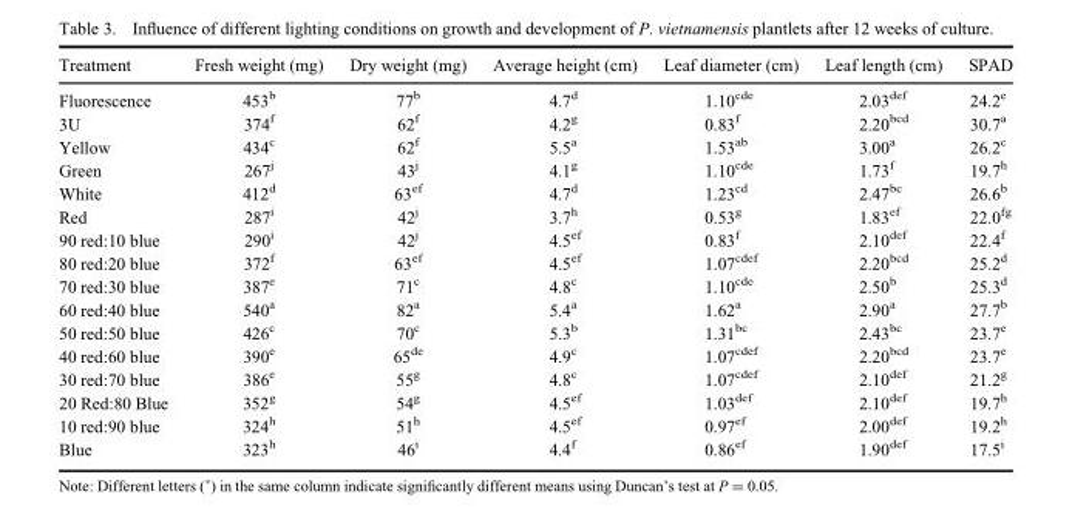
<table><thead><tr><td>Treatment</td><td>Fresh weight (mg)</td><td>Dry weight (mg)</td><td>Average height (cm)</td><td>Leaf diameter (cm)</td><td>Leaf length (cm)</td><td>SPAD</td></tr></thead><tbody><tr><td>Fluorescence</td><td>453<sup>b</sup></td><td>77<sup>b</sup></td><td>4.7<sup>d</sup></td><td>1.10<sup>cde</sup></td><td>2.03<sup>def</sup></td><td>24.2<sup>e</sup></td></tr><tr><td>3U</td><td>374<sup>f</sup></td><td>62<sup>f</sup></td><td>4.2<sup>g</sup></td><td>0.83<sup>f</sup></td><td>2.20<sup>bcd</sup></td><td>30.7<sup>a</sup></td></tr><tr><td>Yellow</td><td>434<sup>c</sup></td><td>62<sup>f</sup></td><td>5.5<sup>a</sup></td><td>1.53<sup>ab</sup></td><td>3.00<sup>a</sup></td><td>26.2<sup>c</sup></td></tr><tr><td>Green</td><td>267<sup>j</sup></td><td>43<sup>j</sup></td><td>4.1<sup>g</sup></td><td>1.10<sup>cde</sup></td><td>1.73<sup>f</sup></td><td>19.7<sup>h</sup></td></tr><tr><td>White</td><td>412<sup>d</sup></td><td>63<sup>ef</sup></td><td>4.7<sup>d</sup></td><td>1.23<sup>cd</sup></td><td>2.47<sup>bc</sup></td><td>26.6<sup>b</sup></td></tr><tr><td>Red</td><td>287<sup>i</sup></td><td>42<sup>j</sup></td><td>3.7<sup>h</sup></td><td>0.53<sup>g</sup></td><td>1.83<sup>ef</sup></td><td>22.0<sup>fg</sup></td></tr><tr><td>90 red:10 blue</td><td>290<sup>i</sup></td><td>42<sup>j</sup></td><td>4.5<sup>ef</sup></td><td>0.83<sup>f</sup></td><td>2.10<sup>def</sup></td><td>22.4<sup>f</sup></td></tr><tr><td>80 red:20 blue</td><td>372<sup>f</sup></td><td>63<sup>ef</sup></td><td>4.5<sup>ef</sup></td><td>1.07<sup>cdef</sup></td><td>2.20<sup>bcd</sup></td><td>25.2<sup>d</sup></td></tr><tr><td>70 red:30 blue</td><td>387<sup>e</sup></td><td>71<sup>c</sup></td><td>4.8<sup>c</sup></td><td>1.10<sup>cde</sup></td><td>2.50<sup>b</sup></td><td>25.3<sup>d</sup></td></tr><tr><td>60 red:40 blue</td><td>540<sup>a</sup></td><td>82<sup>a</sup></td><td>5.4<sup>a</sup></td><td>1.62<sup>a</sup></td><td>2.90<sup>a</sup></td><td>27.7<sup>b</sup></td></tr><tr><td>50 red:50 blue</td><td>426<sup>c</sup></td><td>70<sup>c</sup></td><td>5.3<sup>b</sup></td><td>1.31<sup>bc</sup></td><td>2.43<sup>bc</sup></td><td>23.7<sup>e</sup></td></tr><tr><td>40 red:60 blue</td><td>390<sup>e</sup></td><td>65<sup>de</sup></td><td>4.9<sup>c</sup></td><td>1.07<sup>cdef</sup></td><td>2.20<sup>bcd</sup></td><td>23.7<sup>e</sup></td></tr><tr><td>30 red:70 blue</td><td>386<sup>e</sup></td><td>55<sup>g</sup></td><td>4.8<sup>c</sup></td><td>1.07<sup>cdef</sup></td><td>2.10<sup>def</sup></td><td>21.2<sup>g</sup></td></tr><tr><td>20 Red:80 Blue</td><td>352<sup>g</sup></td><td>54<sup>g</sup></td><td>4.5<sup>ef</sup></td><td>1.03<sup>def</sup></td><td>2.10<sup>def</sup></td><td>19.7<sup>h</sup></td></tr><tr><td>10 red:90 blue</td><td>324<sup>h</sup></td><td>51<sup>h</sup></td><td>4.5<sup>ef</sup></td><td>0.97<sup>ef</sup></td><td>2.00<sup>def</sup></td><td>19.2<sup>h</sup></td></tr><tr><td>Blue</td><td>323<sup>h</sup></td><td>46<sup>i</sup></td><td>4.4<sup>f</sup></td><td>0.86<sup>ef</sup></td><td>1.90<sup>def</sup></td><td>17.5<sup>i</sup></td></tr></tbody></table>